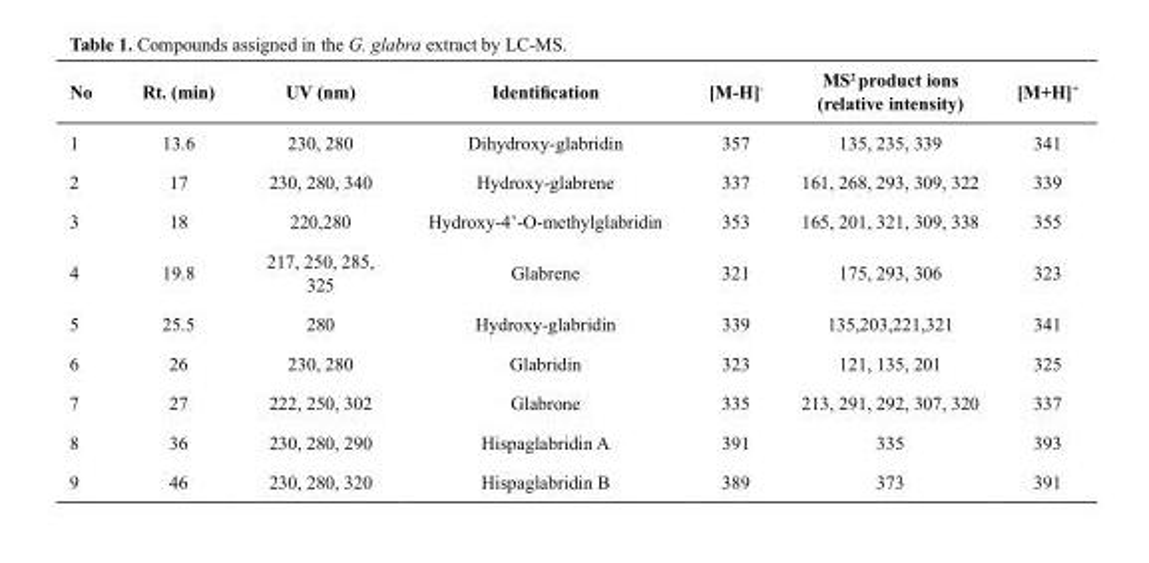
<table><thead><tr><td>No</td><td>Rt. (min)</td><td>UV (nm)</td><td>Identification</td><td>[M-H]<sup>-</sup></td><td>MS<sup>2</sup> product ions (relative intensity)</td><td>[M+H]<sup>+</sup></td></tr></thead><tbody><tr><td>1</td><td>13.6</td><td>230, 280</td><td>Dihydroxy-glabridin</td><td>357</td><td>135, 235, 339</td><td>341</td></tr><tr><td>2</td><td>17</td><td>230, 280, 340</td><td>Hydroxy-glabrene</td><td>337</td><td>161, 268, 293, 309, 322</td><td>339</td></tr><tr><td>3</td><td>18</td><td>220,280</td><td>Hydroxy-4’-O-methylglabridin</td><td>353</td><td>165, 201, 321, 309, 338</td><td>355</td></tr><tr><td>4</td><td>19.8</td><td>217, 250, 285, 325</td><td>Glabrene</td><td>321</td><td>175, 293, 306</td><td>323</td></tr><tr><td>5</td><td>25.5</td><td>280</td><td>Hydroxy-glabridin</td><td>339</td><td>135,203,221,321</td><td>341</td></tr><tr><td>6</td><td>26</td><td>230, 280</td><td>Glabridin</td><td>323</td><td>121, 135, 201</td><td>325</td></tr><tr><td>7</td><td>27</td><td>222, 250, 302</td><td>Glabrone</td><td>335</td><td>213, 291, 292, 307, 320</td><td>337</td></tr><tr><td>8</td><td>36</td><td>230, 280, 290</td><td>Hispaglabridin A</td><td>391</td><td>335</td><td>393</td></tr><tr><td>9</td><td>46</td><td>230, 280, 320</td><td>Hispaglabridin B</td><td>389</td><td>373</td><td>391</td></tr></tbody></table>